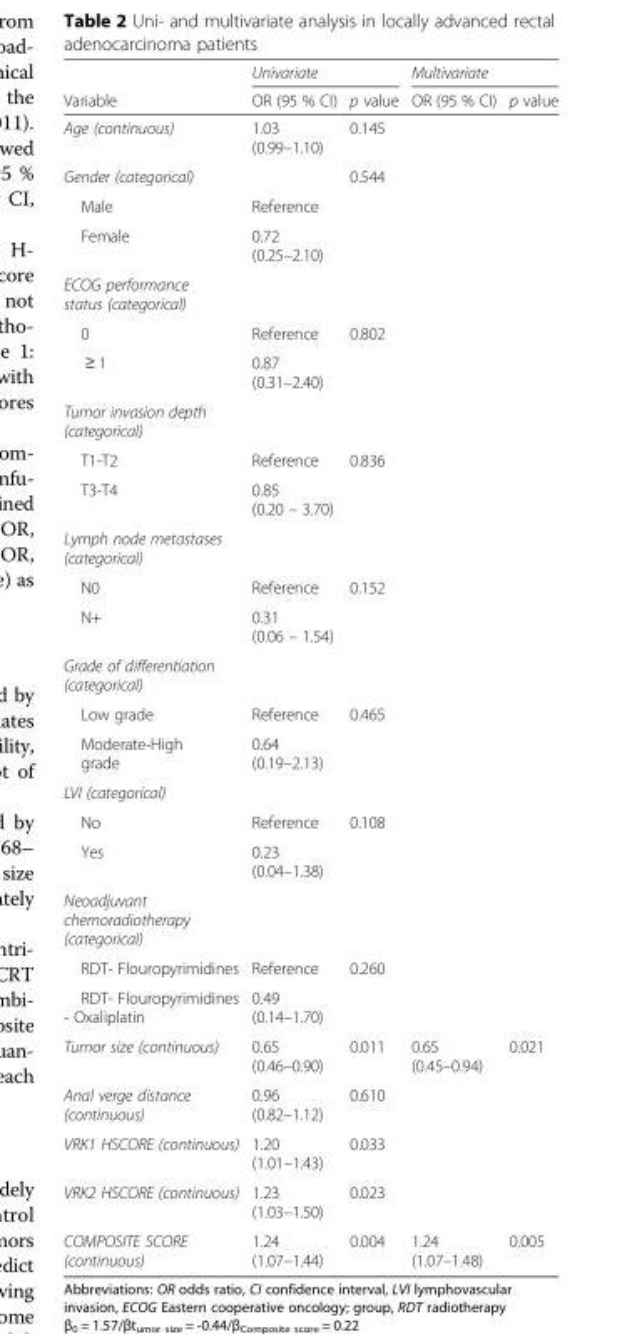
<table><thead><tr><td rowspan="2">Variable</td><td colspan="2">Univariate</td><td colspan="2">Multivariate</td></tr><tr><td>OR (95 % CI)</td><td>p value</td><td>OR (95 % CI)</td><td>p value</td></tr></thead><tbody><tr><td>Age (continuous)</td><td>1.03 (0.99–1.10)</td><td>0.145</td><td></td><td></td></tr><tr><td>Gender (categorical)</td><td></td><td>0.544</td><td></td><td></td></tr><tr><td>Male</td><td>Reference</td><td></td><td></td><td></td></tr><tr><td>Female</td><td>0.72 (0.25–2.10)</td><td></td><td></td><td></td></tr><tr><td colspan="5">ECOG performance status (categorical)</td></tr><tr><td>0</td><td>Reference</td><td>0.802</td><td></td><td></td></tr><tr><td>≥ 1</td><td>0.87 (0.31–2.40)</td><td></td><td></td><td></td></tr><tr><td colspan="5">Tumor invasion depth (categorical)</td></tr><tr><td>T1-T2</td><td>Reference</td><td>0.836</td><td></td><td></td></tr><tr><td>T3-T4</td><td>0.85 (0.20 – 3.70)</td><td></td><td></td><td></td></tr><tr><td colspan="5">Lymph node metastases (categorical)</td></tr><tr><td>N0</td><td>Reference</td><td>0.152</td><td></td><td></td></tr><tr><td>N+</td><td>0.31 (0.06 – 1.54)</td><td></td><td></td><td></td></tr><tr><td colspan="5">Grade of differentiation (categorical)</td></tr><tr><td>Low grade</td><td>Reference</td><td>0.465</td><td></td><td></td></tr><tr><td>Moderate-High grade</td><td>0.64 (0.19–2.13)</td><td></td><td></td><td></td></tr><tr><td colspan="5">LVI (categorical)</td></tr><tr><td>No</td><td>Reference</td><td>0.108</td><td></td><td></td></tr><tr><td>Yes</td><td>0.23 (0.04–1.38)</td><td></td><td></td><td></td></tr><tr><td colspan="5">Neoadjuvant chemoradiotherapy (categorical)</td></tr><tr><td>RDT- Flouropyrimidines</td><td>Reference</td><td>0.260</td><td></td><td></td></tr><tr><td>RDT- Flouropyrimidines - Oxaliplatin</td><td>0.49 (0.14–1.70)</td><td></td><td></td><td></td></tr><tr><td>Tumor size (continuous)</td><td>0.65 (0.46–0.90)</td><td>0.011</td><td>0.65 (0.45–0.94)</td><td>0.021</td></tr><tr><td>Anal verge distance (continuous)</td><td>0.96 (0.82–1.12)</td><td>0.610</td><td></td><td></td></tr><tr><td>VRK1 HSCORE (continuous)</td><td>1.20 (1.01–1.43)</td><td>0.033</td><td></td><td></td></tr><tr><td>VRK2 HSCORE (continuous)</td><td>1.23 (1.03–1.50)</td><td>0.023</td><td></td><td></td></tr><tr><td>COMPOSITE SCORE (continuous)</td><td>1.24 (1.07–1.44)</td><td>0.004</td><td>1.24 (1.07–1.48)</td><td>0.005</td></tr></tbody></table>